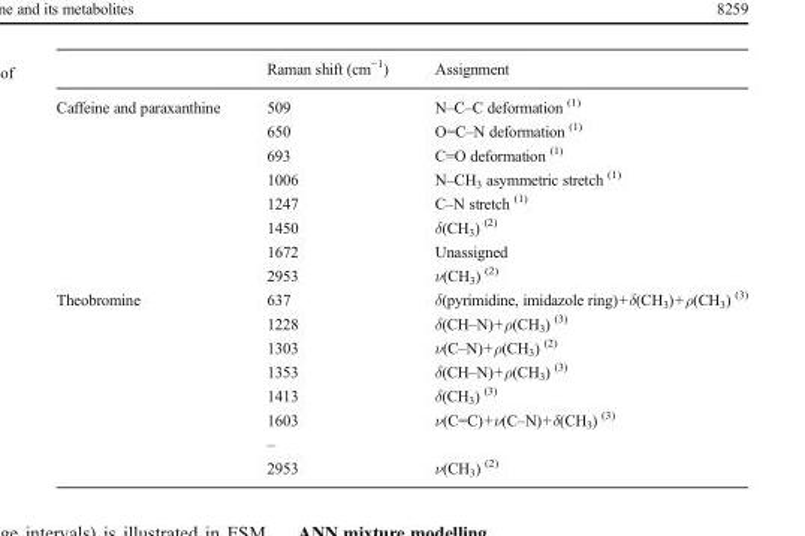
<table><thead><tr><td></td><td>Raman shift (cm<sup>−1</sup>)</td><td>Assignment</td></tr></thead><tbody><tr><td rowspan="8">Caffeine and paraxanthine</td><td>509</td><td>N–C–C deformation <sup>(1)</sup></td></tr><tr><td>650</td><td>O=C–N deformation <sup>(1)</sup></td></tr><tr><td>693</td><td>C=O deformation <sup>(1)</sup></td></tr><tr><td>1006</td><td>N–CH<sub>3</sub> asymmetric stretch <sup>(1)</sup></td></tr><tr><td>1247</td><td>C–N stretch <sup>(1)</sup></td></tr><tr><td>1450</td><td>δ(CH<sub>3</sub>) <sup>(2)</sup></td></tr><tr><td>1672</td><td>Unassigned</td></tr><tr><td>2953</td><td>ν(CH<sub>3</sub>) <sup>(2)</sup></td></tr><tr><td rowspan="8">Theobromine</td><td>637</td><td>δ(pyrimidine, imidazole ring)+δ(CH<sub>3</sub>)+ρ(CH<sub>3</sub>) <sup>(3)</sup></td></tr><tr><td>1228</td><td>δ(CH–N)+ρ(CH<sub>3</sub>) <sup>(3)</sup></td></tr><tr><td>1303</td><td>ν(C–N)+ρ(CH<sub>3</sub>) <sup>(2)</sup></td></tr><tr><td>1353</td><td>δ(CH–N)+ρ(CH<sub>3</sub>) <sup>(3)</sup></td></tr><tr><td>1413</td><td>δ(CH<sub>3</sub>) <sup>(3)</sup></td></tr><tr><td>1603</td><td>ν(C=C)+ν(C–N)+δ(CH<sub>3</sub>) <sup>(3)</sup></td></tr><tr><td>–</td><td></td></tr><tr><td>2953</td><td>ν(CH<sub>3</sub>) <sup>(2)</sup></td></tr></tbody></table>